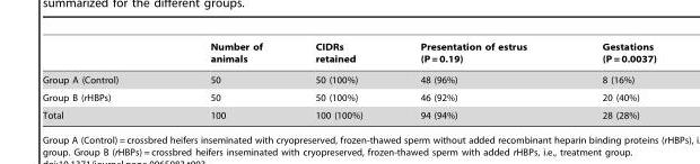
<table><thead><tr><td></td><td>Number of animals</td><td>CIDRs retained</td><td>Presentation of estrus (P = 0.19)</td><td>Gestations (P = 0.0037)</td></tr></thead><tbody><tr><td>Group A (Control)</td><td>50</td><td>50 (100%)</td><td>48 (96%)</td><td>8 (16%)</td></tr><tr><td>Group B (rHBPs)</td><td>50</td><td>50 (100%)</td><td>46 (92%)</td><td>20 (40%)</td></tr><tr><td>Total</td><td>100</td><td>100 (100%)</td><td>94 (94%)</td><td>28 (28%)</td></tr></tbody></table>